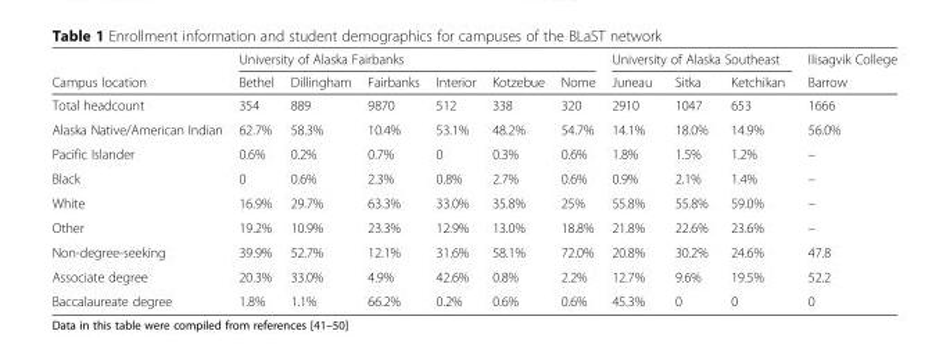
<table><thead><tr><td rowspan="2">Campus location</td><td colspan="6">University of Alaska Fairbanks</td><td colspan="3">University of Alaska Southeast</td><td rowspan="2">Ilisagvik College Barrow</td></tr><tr><td>Bethel</td><td>Dillingham</td><td>Fairbanks</td><td>Interior</td><td>Kotzebue</td><td>Nome</td><td>Juneau</td><td>Sitka</td><td>Ketchikan</td></tr></thead><tbody><tr><td>Total headcount</td><td>354</td><td>889</td><td>9870</td><td>512</td><td>338</td><td>320</td><td>2910</td><td>1047</td><td>653</td><td>1666</td></tr><tr><td>Alaska Native/American Indian</td><td>62.7%</td><td>58.3%</td><td>10.4%</td><td>53.1%</td><td>48.2%</td><td>54.7%</td><td>14.1%</td><td>18.0%</td><td>14.9%</td><td>56.0%</td></tr><tr><td>Pacific Islander</td><td>0.6%</td><td>0.2%</td><td>0.7%</td><td>0</td><td>0.3%</td><td>0.6%</td><td>1.8%</td><td>1.5%</td><td>1.2%</td><td>–</td></tr><tr><td>Black</td><td>0</td><td>0.6%</td><td>2.3%</td><td>0.8%</td><td>2.7%</td><td>0.6%</td><td>0.9%</td><td>2.1%</td><td>1.4%</td><td>–</td></tr><tr><td>White</td><td>16.9%</td><td>29.7%</td><td>63.3%</td><td>33.0%</td><td>35.8%</td><td>25%</td><td>55.8%</td><td>55.8%</td><td>59.0%</td><td>–</td></tr><tr><td>Other</td><td>19.2%</td><td>10.9%</td><td>23.3%</td><td>12.9%</td><td>13.0%</td><td>18.8%</td><td>21.8%</td><td>22.6%</td><td>23.6%</td><td>–</td></tr><tr><td>Non-degree-seeking</td><td>39.9%</td><td>52.7%</td><td>12.1%</td><td>31.6%</td><td>58.1%</td><td>72.0%</td><td>20.8%</td><td>30.2%</td><td>24.6%</td><td>47.8</td></tr><tr><td>Associate degree</td><td>20.3%</td><td>33.0%</td><td>4.9%</td><td>42.6%</td><td>0.8%</td><td>2.2%</td><td>12.7%</td><td>9.6%</td><td>19.5%</td><td>52.2</td></tr><tr><td>Baccalaureate degree</td><td>1.8%</td><td>1.1%</td><td>66.2%</td><td>0.2%</td><td>0.6%</td><td>0.6%</td><td>45.3%</td><td>0</td><td>0</td><td>0</td></tr></tbody></table>